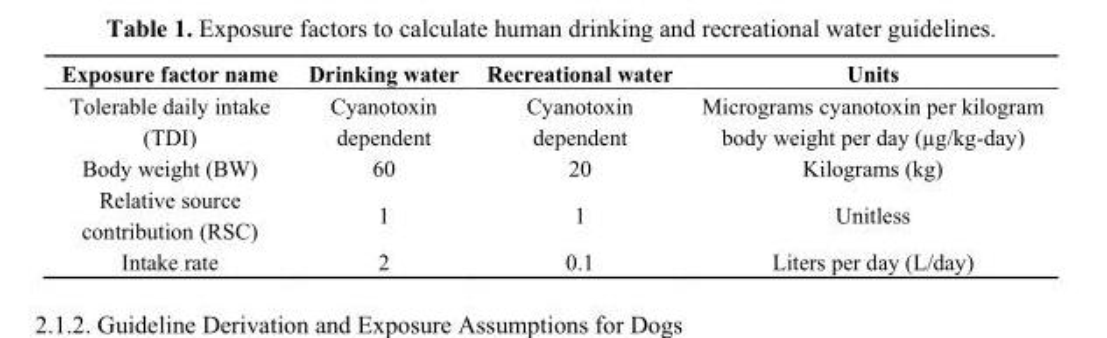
<table><thead><tr><td>Exposure factor name</td><td>Drinking water</td><td>Recreational water</td><td>Units</td></tr></thead><tbody><tr><td>Tolerable daily intake (TDI)</td><td>Cyanotoxin dependent</td><td>Cyanotoxin dependent</td><td>Micrograms cyanotoxin per kilogram body weight per day (µg/kg-day)</td></tr><tr><td>Body weight (BW)</td><td>60</td><td>20</td><td>Kilograms (kg)</td></tr><tr><td>Relative source contribution (RSC)</td><td>1</td><td>1</td><td>Unitless</td></tr><tr><td>Intake rate</td><td>2</td><td>0.1</td><td>Liters per day (L/day)</td></tr></tbody></table>